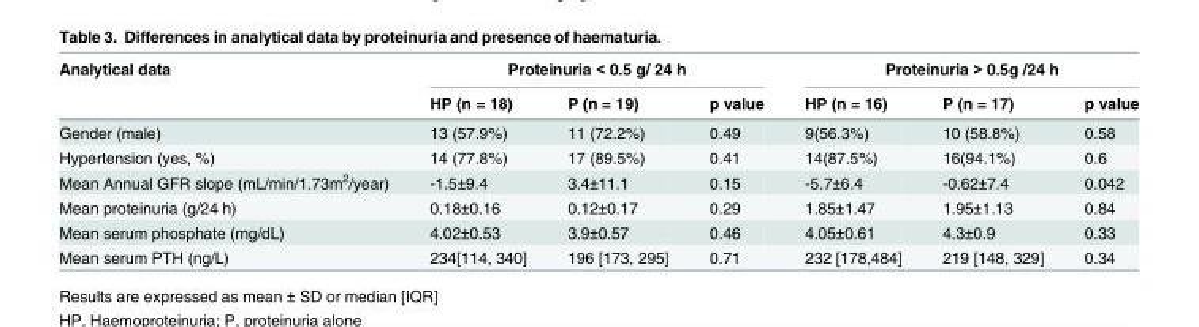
<table><thead><tr><td rowspan="2">Analytical data</td><td colspan="3">Proteinuria &lt; 0.5 g/ 24 h</td><td colspan="3">Proteinuria &gt; 0.5g /24 h</td></tr><tr><td>HP (n = 18)</td><td>P (n = 19)</td><td>p value</td><td>HP (n = 16)</td><td>P (n = 17)</td><td>p value</td></tr></thead><tbody><tr><td>Gender (male)</td><td>13 (57.9%)</td><td>11 (72.2%)</td><td>0.49</td><td>9(56.3%)</td><td>10 (58.8%)</td><td>0.58</td></tr><tr><td>Hypertension (yes, %)</td><td>14 (77.8%)</td><td>17 (89.5%)</td><td>0.41</td><td>14(87.5%)</td><td>16(94.1%)</td><td>0.6</td></tr><tr><td>Mean Annual GFR slope (mL/min/1.73m<sup>2</sup>/year)</td><td>-1.5±9.4</td><td>3.4±11.1</td><td>0.15</td><td>-5.7±6.4</td><td>-0.62±7.4</td><td>0.042</td></tr><tr><td>Mean proteinuria (g/24 h)</td><td>0.18±0.16</td><td>0.12±0.17</td><td>0.29</td><td>1.85±1.47</td><td>1.95±1.13</td><td>0.84</td></tr><tr><td>Mean serum phosphate (mg/dL)</td><td>4.02±0.53</td><td>3.9±0.57</td><td>0.46</td><td>4.05±0.61</td><td>4.3±0.9</td><td>0.33</td></tr><tr><td>Mean serum PTH (ng/L)</td><td>234[114, 340]</td><td>196 [173, 295]</td><td>0.71</td><td>232 [178,484]</td><td>219 [148, 329]</td><td>0.34</td></tr></tbody></table>